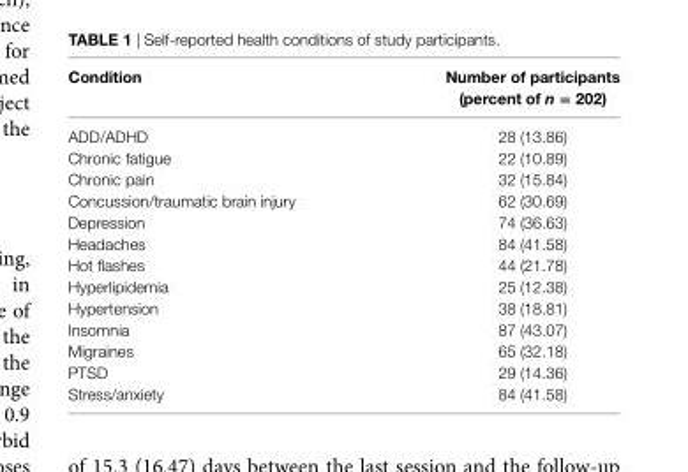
<table><thead><tr><td>condition</td><td>number of participants (percent of n = 202)</td></tr></thead><tbody><tr><td>ADD/ADHD</td><td>28 (13.86)</td></tr><tr><td>Chronic fatigue</td><td>22 (10.89)</td></tr><tr><td>Chronic pain</td><td>32 (15.84)</td></tr><tr><td>Concussion/traumatic brain injury</td><td>62 (30.69)</td></tr><tr><td>Depression</td><td>74 (36.63)</td></tr><tr><td>Headaches</td><td>84 (41.58)</td></tr><tr><td>Hot flashes</td><td>44 (21.78)</td></tr><tr><td>Hyperlipidemia</td><td>25 (12.38)</td></tr><tr><td>Hypertension</td><td>38 (18.81)</td></tr><tr><td>Insomnia</td><td>87 (43.07)</td></tr><tr><td>Migraines</td><td>65 (32.18)</td></tr><tr><td>PTSD</td><td>29 (14.36)</td></tr><tr><td>Stress/anxiety</td><td>84 (41.58)</td></tr></tbody></table>